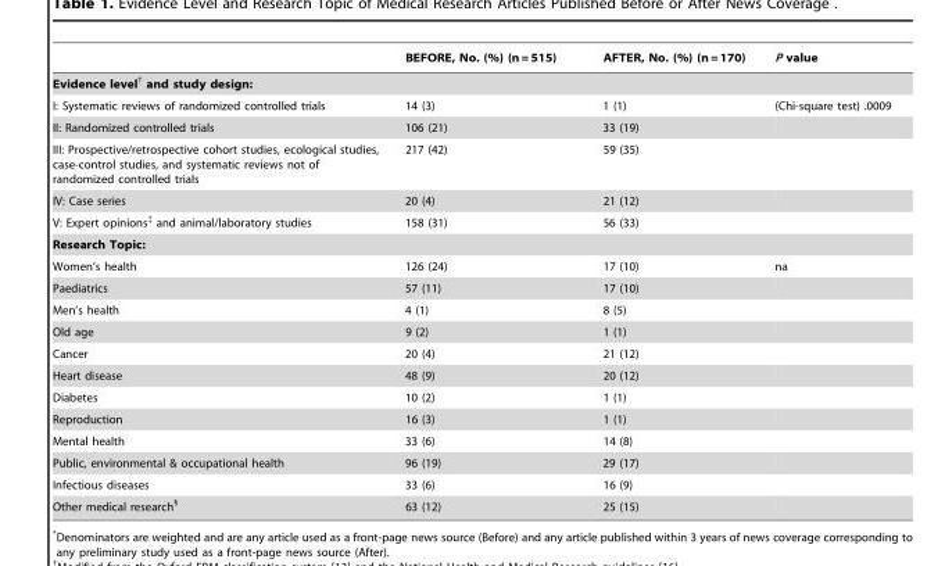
<table><thead><tr><td></td><td>BEFORE, No. (%) (n = 515)</td><td>AFTER, No. (%) (n = 170)</td><td>P value</td></tr></thead><tbody><tr><td colspan="4">Evidence level† and study design:</td></tr><tr><td>I: Systematic reviews of randomized controlled trials</td><td>14 (3)</td><td>1 (1)</td><td>(Chi-square test) .0009</td></tr><tr><td>II: Randomized controlled trials</td><td>106 (21)</td><td>33 (19)</td><td></td></tr><tr><td>III: Prospective/retrospective cohort studies, ecological studies, case-control studies, and systematic reviews not of randomized controlled trials</td><td>217 (42)</td><td>59 (35)</td><td></td></tr><tr><td>IV: Case series</td><td>20 (4)</td><td>21 (12)</td><td></td></tr><tr><td>V: Expert opinions‡ and animal/laboratory studies</td><td>158 (31)</td><td>56 (33)</td><td></td></tr><tr><td colspan="4">Research Topic:</td></tr><tr><td>Women’s health</td><td>126 (24)</td><td>17 (10)</td><td>na</td></tr><tr><td>Paediatrics</td><td>57 (11)</td><td>17 (10)</td><td></td></tr><tr><td>Men’s health</td><td>4 (1)</td><td>8 (5)</td><td></td></tr><tr><td>Old age</td><td>9 (2)</td><td>1 (1)</td><td></td></tr><tr><td>Cancer</td><td>20 (4)</td><td>21 (12)</td><td></td></tr><tr><td>Heart disease</td><td>48 (9)</td><td>20 (12)</td><td></td></tr><tr><td>Diabetes</td><td>10 (2)</td><td>1 (1)</td><td></td></tr><tr><td>Reproduction</td><td>16 (3)</td><td>1 (1)</td><td></td></tr><tr><td>Mental health</td><td>33 (6)</td><td>14 (8)</td><td></td></tr><tr><td>Public, environmental &amp; occupational health</td><td>96 (19)</td><td>29 (17)</td><td></td></tr><tr><td>Infectious diseases</td><td>33 (6)</td><td>16 (9)</td><td></td></tr><tr><td>Other medical research§</td><td>63 (12)</td><td>25 (15)</td><td></td></tr></tbody></table>